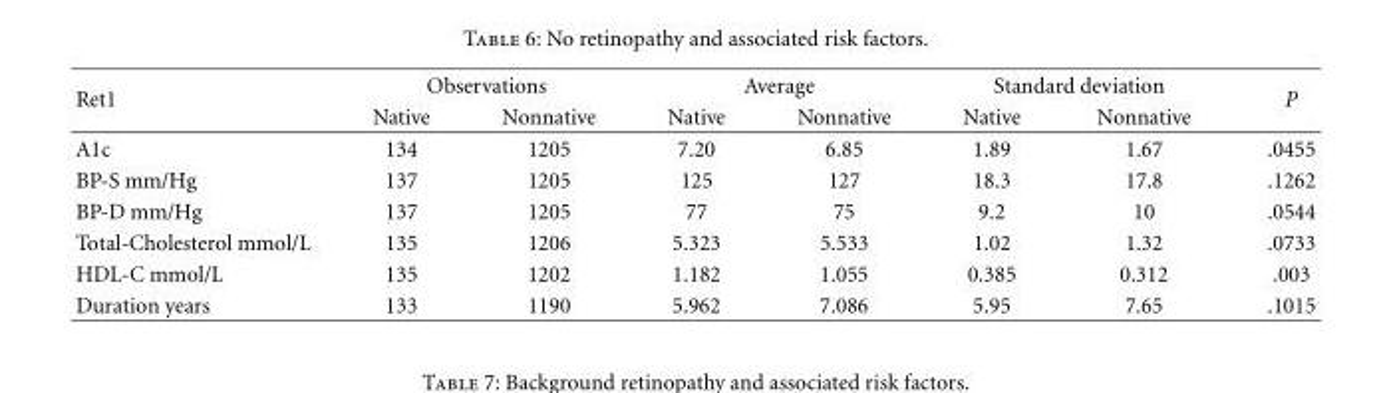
<table><thead><tr><td rowspan="2">Ret1</td><td colspan="2">Observations</td><td colspan="2">Average</td><td colspan="2">Standard deviation</td><td rowspan="2">P</td></tr><tr><td>Native</td><td>Nonnative</td><td>Native</td><td>Nonnative</td><td>Native</td><td>Nonnative</td></tr></thead><tbody><tr><td>A1c</td><td>134</td><td>1205</td><td>7.20</td><td>6.85</td><td>1.89</td><td>1.67</td><td>.0455</td></tr><tr><td>BP-S mm/Hg</td><td>137</td><td>1205</td><td>125</td><td>127</td><td>18.3</td><td>17.8</td><td>.1262</td></tr><tr><td>BP-D mm/Hg</td><td>137</td><td>1205</td><td>77</td><td>75</td><td>9.2</td><td>10</td><td>.0544</td></tr><tr><td>Total-Cholesterol mmol/L</td><td>135</td><td>1206</td><td>5.323</td><td>5.533</td><td>1.02</td><td>1.32</td><td>.0733</td></tr><tr><td>HDL-C mmol/L</td><td>135</td><td>1202</td><td>1.182</td><td>1.055</td><td>0.385</td><td>0.312</td><td>.003</td></tr><tr><td>Duration years</td><td>133</td><td>1190</td><td>5.962</td><td>7.086</td><td>5.95</td><td>7.65</td><td>.1015</td></tr></tbody></table>